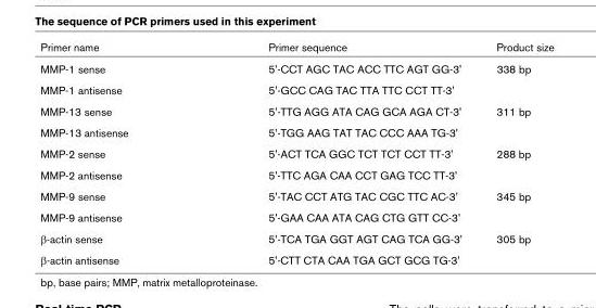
<table><thead><tr><td>Primer name</td><td>Primer sequence</td><td>Product size</td></tr></thead><tbody><tr><td>MMP-1 sense</td><td>5&#x27;-CCT AGC TAC ACC TTC AGT GG-3&#x27;</td><td>338 bp</td></tr><tr><td>MMP-1 antisense</td><td>5&#x27;-GCC CAG TAC TTA TTC CCT TT-3&#x27;</td><td></td></tr><tr><td>MMP-13 sense</td><td>5&#x27;-TTG AGG ATA CAG GCA AGA CT-3&#x27;</td><td>311 bp</td></tr><tr><td>MMP-13 antisense</td><td>5&#x27;-TGG AAG TAT TAC CCC AAA TG-3&#x27;</td><td></td></tr><tr><td>MMP-2 sense</td><td>5&#x27;-ACT TCA GGC TCT TCT CCT TT-3&#x27;</td><td>288 bp</td></tr><tr><td>MMP-2 antisense</td><td>5&#x27;-TTC AGA CAA CCT GAG TCC TT-3&#x27;</td><td></td></tr><tr><td>MMP-9 sense</td><td>5&#x27;-TAC CCT ATG TAC CGC TTC AC-3&#x27;</td><td>345 bp</td></tr><tr><td>MMP-9 antisense</td><td>5&#x27;-GAA CAA ATA CAG CTG GTT CC-3&#x27;</td><td></td></tr><tr><td>β-actin sense</td><td>5&#x27;-TCA TGA GGT AGT CAG TCA GG-3&#x27;</td><td>305 bp</td></tr><tr><td>β-actin antisense</td><td>5&#x27;-CTT CTA CAA TGA GCT GCG TG-3&#x27;</td><td></td></tr></tbody></table>